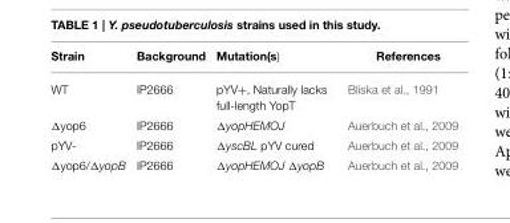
<table><thead><tr><td>Strain</td><td>Background</td><td>Mutation(s)</td><td>References</td></tr></thead><tbody><tr><td>WT</td><td>IP2666</td><td>pYV+, Naturally lacks full-length YopT</td><td>Bliska et al., 1991</td></tr><tr><td>Δyop6</td><td>IP2666</td><td>ΔyopHEMOJ</td><td>Auerbuch et al., 2009</td></tr><tr><td>pYV-</td><td>IP2666</td><td>ΔyscBL pYV cured</td><td>Auerbuch et al., 2009</td></tr><tr><td>Δyop6/ΔyopB</td><td>IP2666</td><td>ΔyopHEMOJ ΔyopB</td><td>Auerbuch et al., 2009</td></tr></tbody></table>